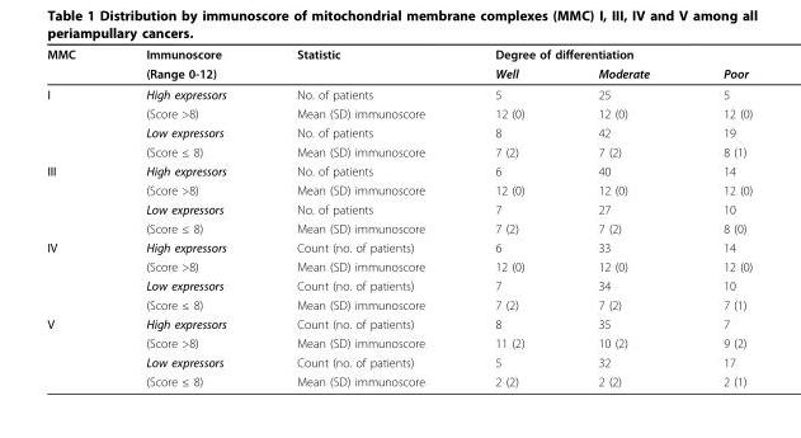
<table><thead><tr><td rowspan="2">MMC</td><td rowspan="2">Immunoscore (Range 0-12)</td><td rowspan="2">Statistic</td><td colspan="3">Degree of differentiation</td></tr><tr><td>Well</td><td>Moderate</td><td>Poor</td></tr></thead><tbody><tr><td rowspan="4">I</td><td>High expressors</td><td>No. of patients</td><td>5</td><td>25</td><td>5</td></tr><tr><td>(Score &gt;8)</td><td>Mean (SD) immunoscore</td><td>12 (0)</td><td>12 (0)</td><td>12 (0)</td></tr><tr><td>Low expressors</td><td>No. of patients</td><td>8</td><td>42</td><td>19</td></tr><tr><td>(Score ≤ 8)</td><td>Mean (SD) immunoscore</td><td>7 (2)</td><td>7 (2)</td><td>8 (1)</td></tr><tr><td rowspan="4">III</td><td>High expressors</td><td>No. of patients</td><td>6</td><td>40</td><td>14</td></tr><tr><td>(Score &gt;8)</td><td>Mean (SD) immunoscore</td><td>12 (0)</td><td>12 (0)</td><td>12 (0)</td></tr><tr><td>Low expressors</td><td>No. of patients</td><td>7</td><td>27</td><td>10</td></tr><tr><td>(Score ≤ 8)</td><td>Mean (SD) immunoscore</td><td>7 (2)</td><td>7 (2)</td><td>8 (0)</td></tr><tr><td rowspan="4">IV</td><td>High expressors</td><td>Count (no. of patients)</td><td>6</td><td>33</td><td>14</td></tr><tr><td>(Score &gt;8)</td><td>Mean (SD) immunoscore</td><td>12 (0)</td><td>12 (0)</td><td>12 (0)</td></tr><tr><td>Low expressors</td><td>Count (no. of patients)</td><td>7</td><td>34</td><td>10</td></tr><tr><td>(Score ≤ 8)</td><td>Mean (SD) immunoscore</td><td>7 (2)</td><td>7 (2)</td><td>7 (1)</td></tr><tr><td rowspan="4">V</td><td>High expressors</td><td>Count (no. of patients)</td><td>8</td><td>35</td><td>7</td></tr><tr><td>(Score &gt;8)</td><td>Mean (SD) immunoscore</td><td>11 (2)</td><td>10 (2)</td><td>9 (2)</td></tr><tr><td>Low expressors</td><td>Count (no. of patients)</td><td>5</td><td>32</td><td>17</td></tr><tr><td>(Score ≤ 8)</td><td>Mean (SD) immunoscore</td><td>2 (2)</td><td>2 (2)</td><td>2 (1)</td></tr></tbody></table>